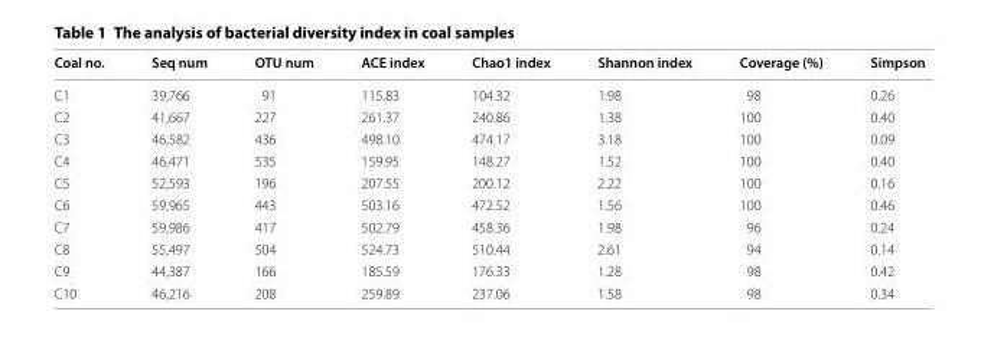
<table><thead><tr><td>Coal no.</td><td>Seq num</td><td>OTU num</td><td>ACE index</td><td>Chao1 index</td><td>Shannon index</td><td>Coverage (%)</td><td>Simpson</td></tr></thead><tbody><tr><td>C1</td><td>39,766</td><td>91</td><td>115.83</td><td>104.32</td><td>1.98</td><td>98</td><td>0.26</td></tr><tr><td>C2</td><td>41,667</td><td>227</td><td>261.37</td><td>240.86</td><td>1.38</td><td>100</td><td>0.40</td></tr><tr><td>C3</td><td>46,582</td><td>436</td><td>498.10</td><td>474.17</td><td>3.18</td><td>100</td><td>0.09</td></tr><tr><td>C4</td><td>46,471</td><td>535</td><td>159.95</td><td>148.27</td><td>1.52</td><td>100</td><td>0.40</td></tr><tr><td>C5</td><td>52,593</td><td>196</td><td>207.55</td><td>200.12</td><td>2.22</td><td>100</td><td>0.16</td></tr><tr><td>C6</td><td>59,965</td><td>443</td><td>503.16</td><td>472.52</td><td>1.56</td><td>100</td><td>0.46</td></tr><tr><td>C7</td><td>59,986</td><td>417</td><td>502.79</td><td>458.36</td><td>1.98</td><td>96</td><td>0.24</td></tr><tr><td>C8</td><td>55,497</td><td>504</td><td>524.73</td><td>510.44</td><td>2.61</td><td>94</td><td>0.14</td></tr><tr><td>C9</td><td>44,387</td><td>166</td><td>185.59</td><td>176.33</td><td>1.28</td><td>98</td><td>0.42</td></tr><tr><td>C10</td><td>46,216</td><td>208</td><td>259.89</td><td>237.06</td><td>1.58</td><td>98</td><td>0.34</td></tr></tbody></table>